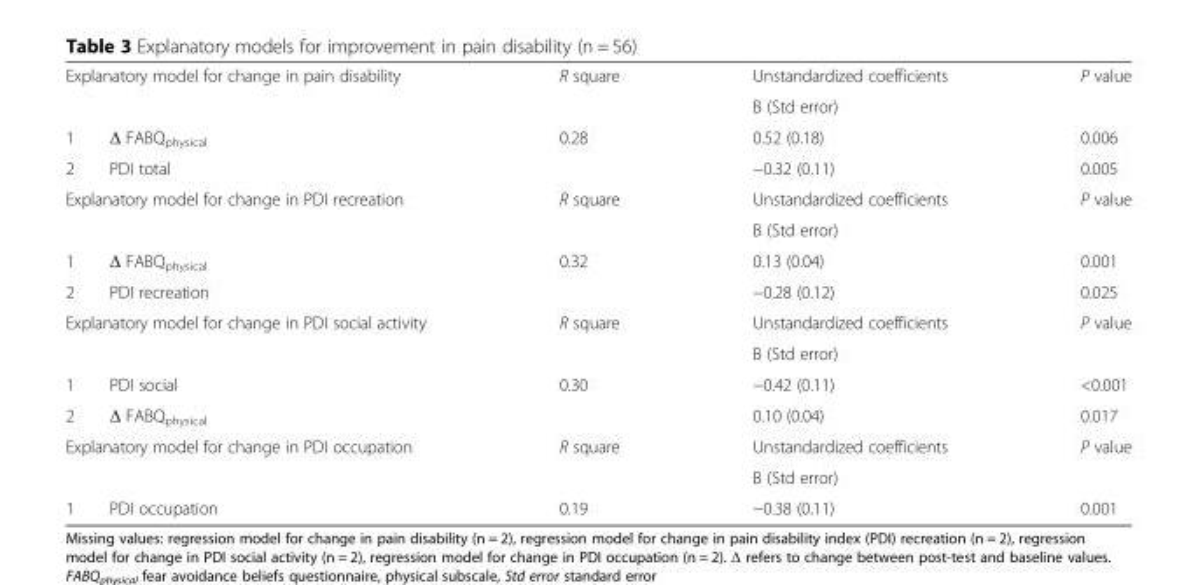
<table><tbody><tr><td rowspan="2">Explanatory model for change in pain disability</td><td rowspan="2">R square</td><td>Unstandardized coefficients</td><td rowspan="2">P value</td></tr><tr><td>B (Std error)</td></tr><tr><td>1 Δ FABQ<sub>physical</sub></td><td rowspan="2">0.28</td><td>0.52 (0.18)</td><td>0.006</td></tr><tr><td>2 PDI total</td><td>−0.32 (0.11)</td><td>0.005</td></tr><tr><td rowspan="2">Explanatory model for change in PDI recreation</td><td rowspan="2">R square</td><td>Unstandardized coefficients</td><td rowspan="2">P value</td></tr><tr><td>B (Std error)</td></tr><tr><td>1 Δ FABQ<sub>physical</sub></td><td rowspan="2">0.32</td><td>0.13 (0.04)</td><td>0.001</td></tr><tr><td>2 PDI recreation</td><td>−0.28 (0.12)</td><td>0.025</td></tr><tr><td rowspan="2">Explanatory model for change in PDI social activity</td><td rowspan="2">R square</td><td>Unstandardized coefficients</td><td rowspan="2">P value</td></tr><tr><td>B (Std error)</td></tr><tr><td>1 PDI social</td><td rowspan="2">0.30</td><td>−0.42 (0.11)</td><td>&lt;0.001</td></tr><tr><td>2 Δ FABQ<sub>physical</sub></td><td>0.10 (0.04)</td><td>0.017</td></tr><tr><td rowspan="2">Explanatory model for change in PDI occupation</td><td rowspan="2">R square</td><td>Unstandardized coefficients</td><td rowspan="2">P value</td></tr><tr><td>B (Std error)</td></tr><tr><td>1 PDI occupation</td><td>0.19</td><td>−0.38 (0.11)</td><td>0.001</td></tr></tbody></table>